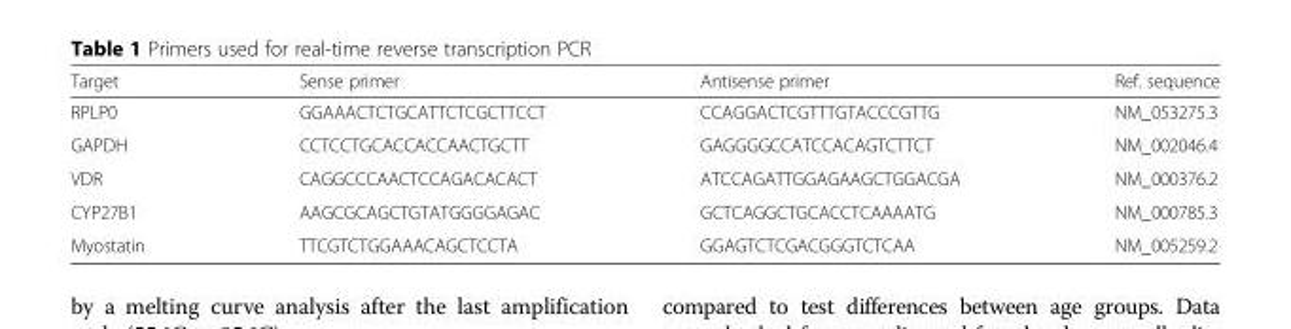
<table><thead><tr><td>Target</td><td>Sense primer</td><td>Antisense primer</td><td>Ref. sequence</td></tr></thead><tbody><tr><td>RPLP0</td><td>GGAAACTCTGCATTCTCGCTTCCT</td><td>CCAGGACTCGTTTGTACCCGTTG</td><td>NM_053275.3</td></tr><tr><td>GAPDH</td><td>CCTCCTGCACCACCAACTGCTT</td><td>GAGGGGCCATCCACAGTCTTCT</td><td>NM_002046.4</td></tr><tr><td>VDR</td><td>CAGGCCCAACTCCAGACACACT</td><td>ATCCAGATTGGAGAAGCTGGACGA</td><td>NM_000376.2</td></tr><tr><td>CYP27B1</td><td>AAGCGCAGCTGTATGGGGAGAC</td><td>GCTCAGGCTGCACCTCAAAATG</td><td>NM_000785.3</td></tr><tr><td>Myostatin</td><td>TTCGTCTGGAAACAGCTCCTA</td><td>GGAGTCTCGACGGGTCTCAA</td><td>NM_005259.2</td></tr></tbody></table>